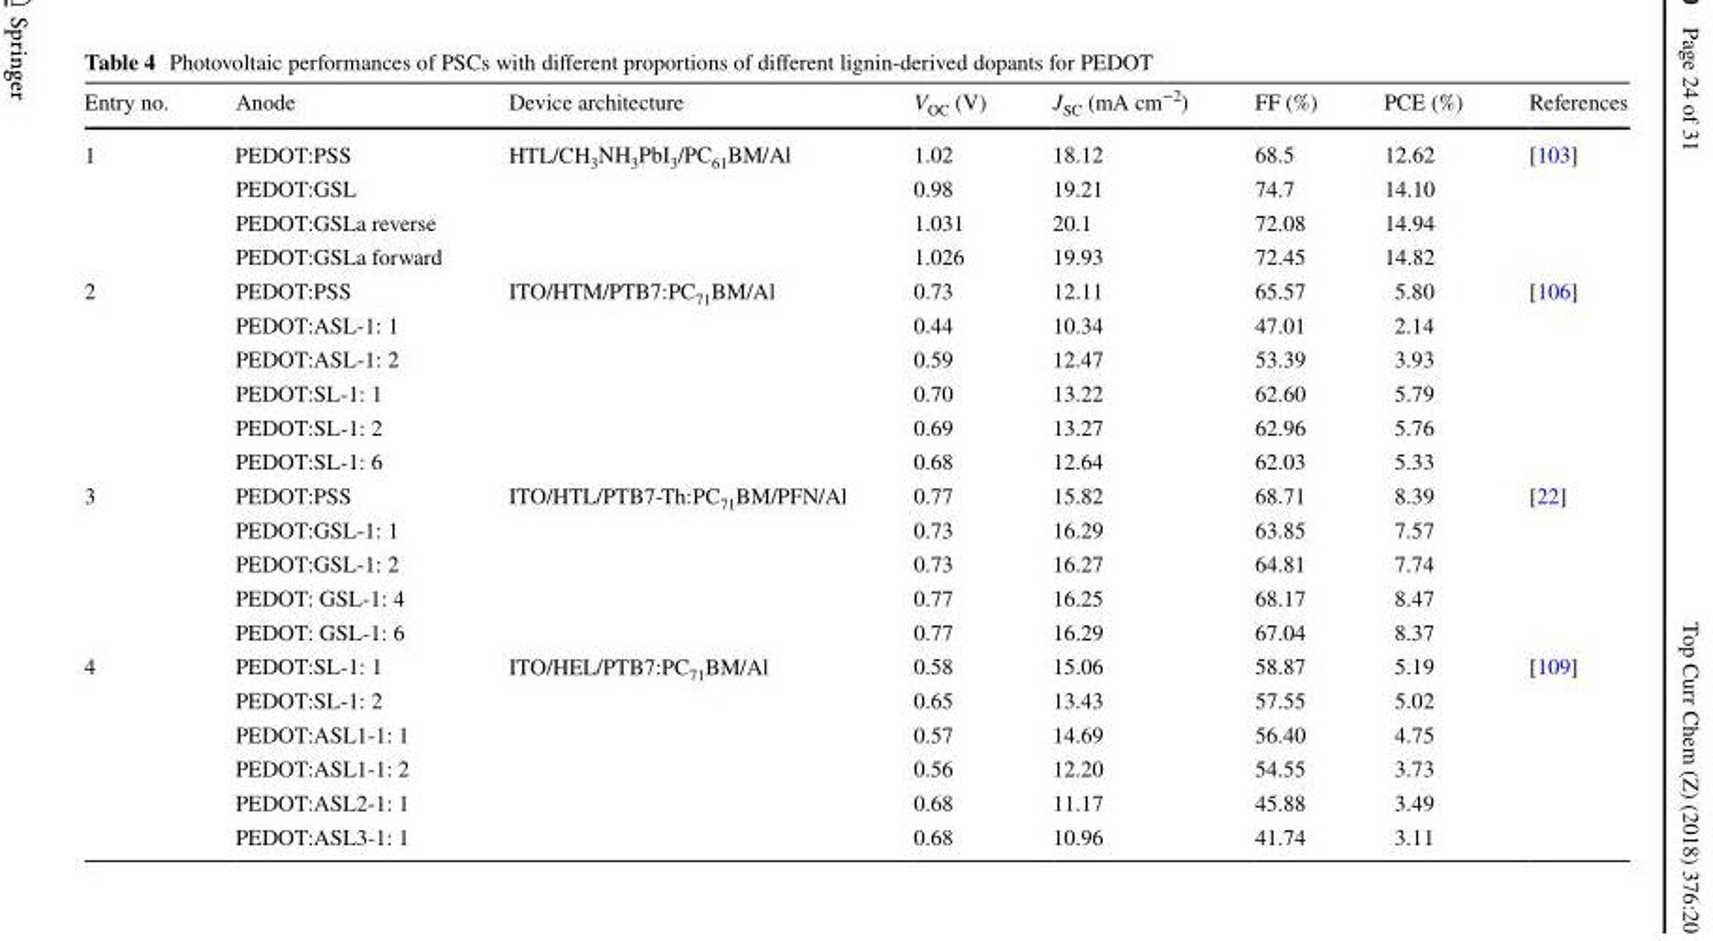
<table><thead><tr><td>Entry no.</td><td>Anode</td><td>Device architecture</td><td>V<sub>OC</sub> (V)</td><td>J<sub>SC</sub> (mA cm<sup>−2</sup>)</td><td>FF (%)</td><td>PCE (%)</td><td>References</td></tr></thead><tbody><tr><td rowspan="4">1</td><td>PEDOT:PSS</td><td rowspan="4">HTL/CH<sub>3</sub>NH<sub>3</sub>PbI<sub>3</sub>/PC<sub>61</sub>BM/Al</td><td>1.02</td><td>18.12</td><td>68.5</td><td>12.62</td><td>[103]</td></tr><tr><td>PEDOT:GSL</td><td>0.98</td><td>19.21</td><td>74.7</td><td>14.10</td><td></td></tr><tr><td>PEDOT:GSLa reverse</td><td>1.031</td><td>20.1</td><td>72.08</td><td>14.94</td><td></td></tr><tr><td>PEDOT:GSLa forward</td><td>1.026</td><td>19.93</td><td>72.45</td><td>14.82</td><td></td></tr><tr><td rowspan="6">2</td><td>PEDOT:PSS</td><td rowspan="6">ITO/HTM/PTB7:PC<sub>71</sub>BM/Al</td><td>0.73</td><td>12.11</td><td>65.57</td><td>5.80</td><td>[106]</td></tr><tr><td>PEDOT:ASL-1: 1</td><td>0.44</td><td>10.34</td><td>47.01</td><td>2.14</td><td></td></tr><tr><td>PEDOT:ASL-1: 2</td><td>0.59</td><td>12.47</td><td>53.39</td><td>3.93</td><td></td></tr><tr><td>PEDOT:SL-1: 1</td><td>0.70</td><td>13.22</td><td>62.60</td><td>5.79</td><td></td></tr><tr><td>PEDOT:SL-1: 2</td><td>0.69</td><td>13.27</td><td>62.96</td><td>5.76</td><td></td></tr><tr><td>PEDOT:SL-1: 6</td><td>0.68</td><td>12.64</td><td>62.03</td><td>5.33</td><td></td></tr><tr><td rowspan="5">3</td><td>PEDOT:PSS</td><td rowspan="5">ITO/HTL/PTB7-Th:PC<sub>71</sub>BM/PFN/Al</td><td>0.77</td><td>15.82</td><td>68.71</td><td>8.39</td><td>[22]</td></tr><tr><td>PEDOT:GSL-1: 1</td><td>0.73</td><td>16.29</td><td>63.85</td><td>7.57</td><td></td></tr><tr><td>PEDOT:GSL-1: 2</td><td>0.73</td><td>16.27</td><td>64.81</td><td>7.74</td><td></td></tr><tr><td>PEDOT: GSL-1: 4</td><td>0.77</td><td>16.25</td><td>68.17</td><td>8.47</td><td></td></tr><tr><td>PEDOT: GSL-1: 6</td><td>0.77</td><td>16.29</td><td>67.04</td><td>8.37</td><td></td></tr><tr><td rowspan="6">4</td><td>PEDOT:SL-1: 1</td><td rowspan="6">ITO/HEL/PTB7:PC<sub>71</sub>BM/Al</td><td>0.58</td><td>15.06</td><td>58.87</td><td>5.19</td><td>[109]</td></tr><tr><td>PEDOT:SL-1: 2</td><td>0.65</td><td>13.43</td><td>57.55</td><td>5.02</td><td></td></tr><tr><td>PEDOT:ASL1-1: 1</td><td>0.57</td><td>14.69</td><td>56.40</td><td>4.75</td><td></td></tr><tr><td>PEDOT:ASL1-1: 2</td><td>0.56</td><td>12.20</td><td>54.55</td><td>3.73</td><td></td></tr><tr><td>PEDOT:ASL2-1: 1</td><td>0.68</td><td>11.17</td><td>45.88</td><td>3.49</td><td></td></tr><tr><td>PEDOT:ASL3-1: 1</td><td>0.68</td><td>10.96</td><td>41.74</td><td>3.11</td><td></td></tr></tbody></table>